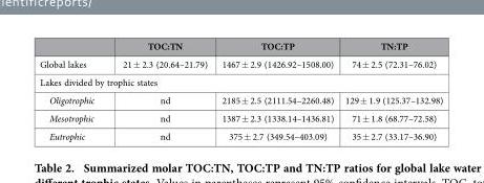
<table><thead><tr><td></td><td>TOC:TN</td><td>TOC:TP</td><td>TN:TP</td></tr></thead><tbody><tr><td>Global lakes</td><td>21 ± 2.3 (20.64–21.79)</td><td>1467 ± 2.9 (1426.92–1508.00)</td><td>74 ± 2.5 (72.31–76.02)</td></tr><tr><td colspan="4">Lakes divided by trophic states</td></tr><tr><td>Oligotrophic</td><td>nd</td><td>2185 ± 2.5 (2111.54–2260.48)</td><td>129 ± 1.9 (125.37–132.98)</td></tr><tr><td>Mesotrophic</td><td>nd</td><td>1387 ± 2.3 (1338.14–1436.81)</td><td>71 ± 1.8 (68.77–72.58)</td></tr><tr><td>Eutrophic</td><td>nd</td><td>375 ± 2.7 (349.54–403.09)</td><td>35 ± 2.7 (33.17–36.90)</td></tr></tbody></table>